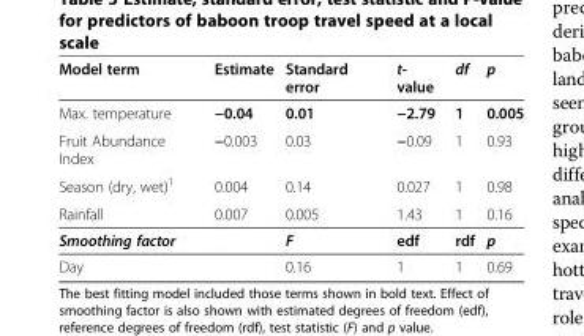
<table><thead><tr><td>Model term</td><td>Estimate</td><td>Standard error</td><td>t- value</td><td>df</td><td>p</td></tr></thead><tbody><tr><td>Max. temperature</td><td>−0.04</td><td>0.01</td><td>−2.79</td><td>1</td><td>0.005</td></tr><tr><td>Fruit Abundance Index</td><td>−0.003</td><td>0.03</td><td>−0.09</td><td>1</td><td>0.93</td></tr><tr><td>Season (dry, wet)<sup>1</sup></td><td>0.004</td><td>0.14</td><td>0.027</td><td>1</td><td>0.98</td></tr><tr><td>Rainfall</td><td>0.007</td><td>0.005</td><td>1.43</td><td>1</td><td>0.16</td></tr><tr><td>Smoothing factor</td><td></td><td>F</td><td>edf</td><td>rdf</td><td>p</td></tr><tr><td>Day</td><td></td><td>0.16</td><td>1</td><td>1</td><td>0.69</td></tr></tbody></table>